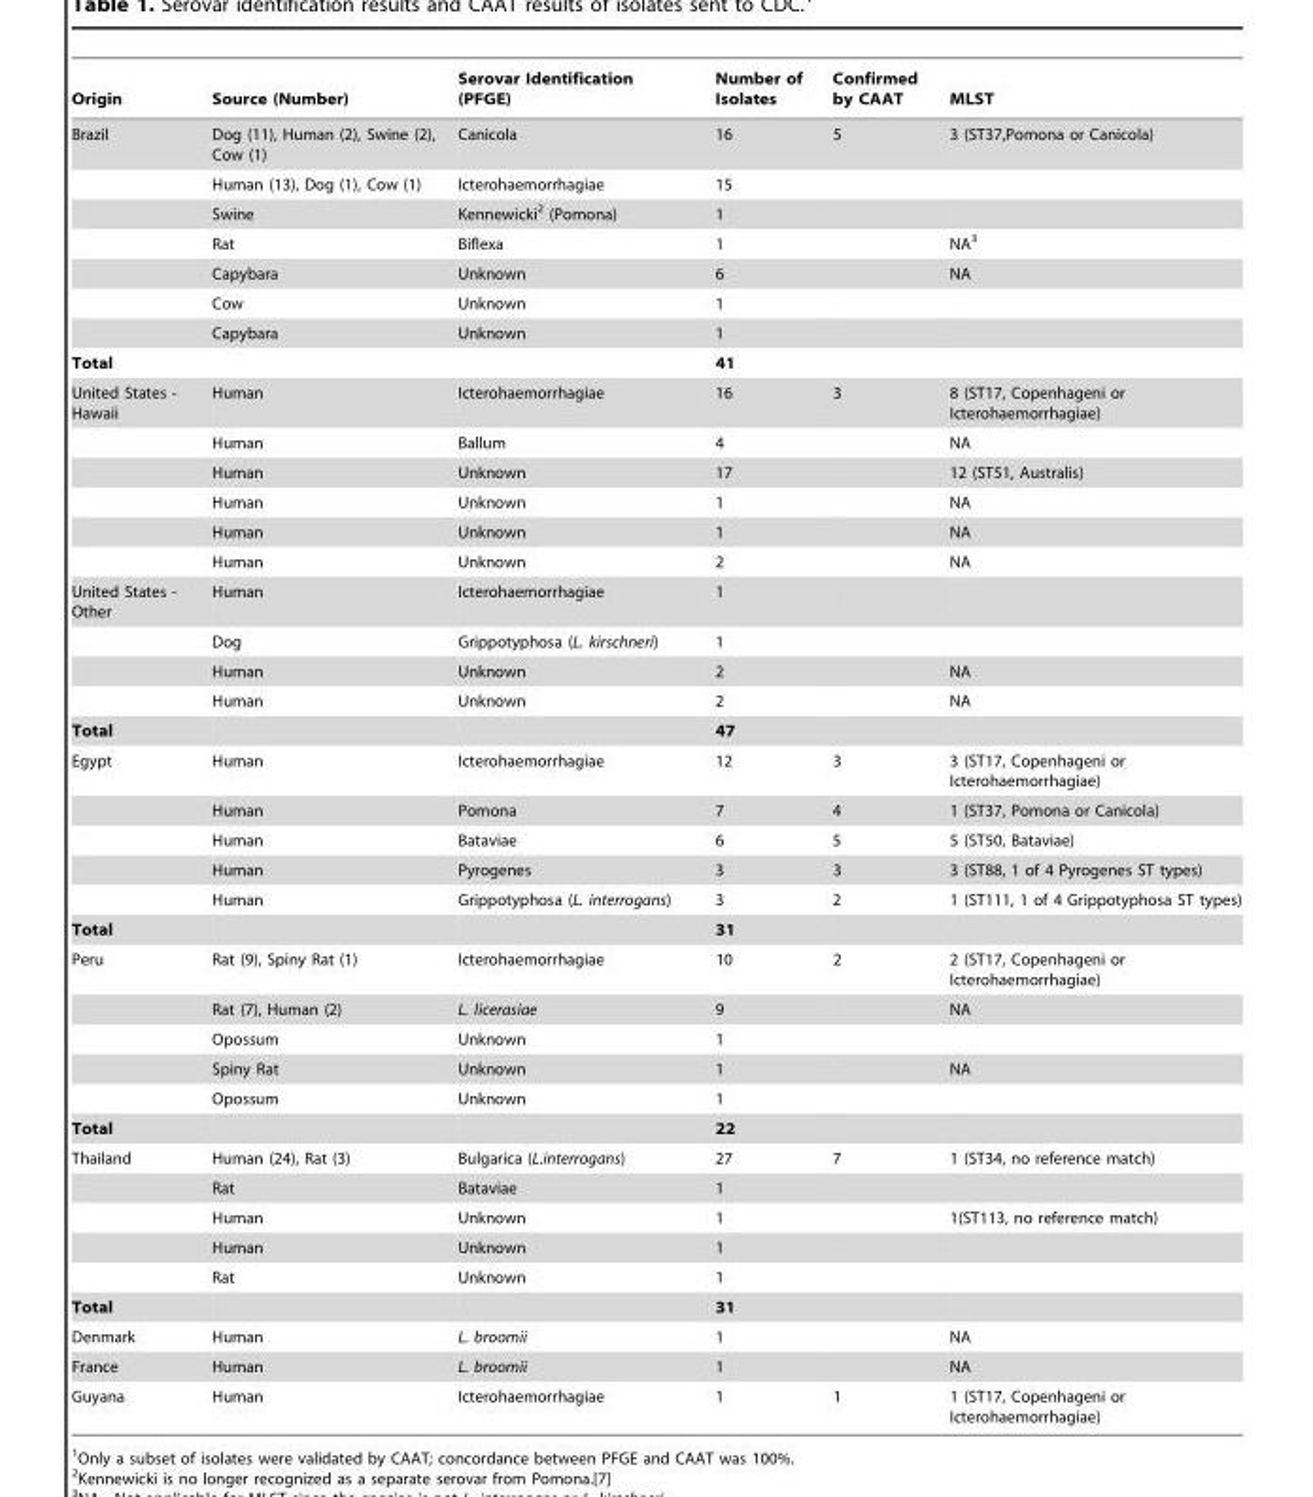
<table><thead><tr><td>Origin</td><td>Source (Number)</td><td>Serovar Identification (PFGE)</td><td>Number of Isolates</td><td>Confirmed by CAAT</td><td>MLST</td></tr></thead><tbody><tr><td rowspan="7">Brazil</td><td>Dog (11), Human (2), Swine (2), Cow (1)</td><td>Canicola</td><td>16</td><td>5</td><td>3 (ST37,Pomona or Canicola)</td></tr><tr><td>Human (13), Dog (1), Cow (1)</td><td>Icterohaemorrhagiae</td><td>15</td><td></td><td></td></tr><tr><td>Swine</td><td>Kennewicki<sup>2</sup> (Pomona)</td><td>1</td><td></td><td></td></tr><tr><td>Rat</td><td>Biflexa</td><td>1</td><td></td><td>NA<sup>3</sup></td></tr><tr><td>Capybara</td><td>Unknown</td><td>6</td><td></td><td>NA</td></tr><tr><td>Cow</td><td>Unknown</td><td>1</td><td></td><td></td></tr><tr><td>Capybara</td><td>Unknown</td><td>1</td><td></td><td></td></tr><tr><td>Total</td><td></td><td></td><td>41</td><td></td><td></td></tr><tr><td rowspan="6">United States - Hawaii</td><td>Human</td><td>Icterohaemorrhagiae</td><td>16</td><td>3</td><td>8 (ST17, Copenhageni or Icterohaemorrhagiae)</td></tr><tr><td>Human</td><td>Ballum</td><td>4</td><td></td><td>NA</td></tr><tr><td>Human</td><td>Unknown</td><td>17</td><td></td><td>12 (ST51, Australis)</td></tr><tr><td>Human</td><td>Unknown</td><td>1</td><td></td><td>NA</td></tr><tr><td>Human</td><td>Unknown</td><td>1</td><td></td><td>NA</td></tr><tr><td>Human</td><td>Unknown</td><td>2</td><td></td><td>NA</td></tr><tr><td rowspan="4">United States - Other</td><td>Human</td><td>Icterohaemorrhagiae</td><td>1</td><td></td><td></td></tr><tr><td>Dog</td><td>Grippotyphosa (L. kirschneri)</td><td>1</td><td></td><td></td></tr><tr><td>Human</td><td>Unknown</td><td>2</td><td></td><td>NA</td></tr><tr><td>Human</td><td>Unknown</td><td>2</td><td></td><td>NA</td></tr><tr><td>Total</td><td></td><td></td><td>47</td><td></td><td></td></tr><tr><td rowspan="5">Egypt</td><td>Human</td><td>Icterohaemorrhagiae</td><td>12</td><td>3</td><td>3 (ST17, Copenhageni or Icterohaemorrhagiae)</td></tr><tr><td>Human</td><td>Pomona</td><td>7</td><td>4</td><td>1 (ST37, Pomona or Canicola)</td></tr><tr><td>Human</td><td>Bataviae</td><td>6</td><td>5</td><td>5 (ST50, Bataviae)</td></tr><tr><td>Human</td><td>Pyrogenes</td><td>3</td><td>3</td><td>3 (ST88, 1 of 4 Pyrogenes ST types)</td></tr><tr><td>Human</td><td>Grippotyphosa (L. interrogans)</td><td>3</td><td>2</td><td>1 (ST111, 1 of 4 Grippotyphosa ST types)</td></tr><tr><td>Total</td><td></td><td></td><td>31</td><td></td><td></td></tr><tr><td rowspan="5">Peru</td><td>Rat (9), Spiny Rat (1)</td><td>Icterohaemorrhagiae</td><td>10</td><td>2</td><td>2 (ST17, Copenhageni or Icterohaemorrhagiae)</td></tr><tr><td>Rat (7), Human (2)</td><td>L. licerasiae</td><td>9</td><td></td><td>NA</td></tr><tr><td>Opossum</td><td>Unknown</td><td>1</td><td></td><td></td></tr><tr><td>Spiny Rat</td><td>Unknown</td><td>1</td><td></td><td>NA</td></tr><tr><td>Opossum</td><td>Unknown</td><td>1</td><td></td><td></td></tr><tr><td>Total</td><td></td><td></td><td>22</td><td></td><td></td></tr><tr><td rowspan="5">Thailand</td><td>Human (24), Rat (3)</td><td>Bulgarica (L.interrogans)</td><td>27</td><td>7</td><td>1 (ST34, no reference match)</td></tr><tr><td>Rat</td><td>Bataviae</td><td>1</td><td></td><td></td></tr><tr><td>Human</td><td>Unknown</td><td>1</td><td></td><td>1(ST113, no reference match)</td></tr><tr><td>Human</td><td>Unknown</td><td>1</td><td></td><td></td></tr><tr><td>Rat</td><td>Unknown</td><td>1</td><td></td><td></td></tr><tr><td>Total</td><td></td><td></td><td>31</td><td></td><td></td></tr><tr><td>Denmark</td><td>Human</td><td>L. broomii</td><td>1</td><td></td><td>NA</td></tr><tr><td>France</td><td>Human</td><td>L. broomii</td><td>1</td><td></td><td>NA</td></tr><tr><td>Guyana</td><td>Human</td><td>Icterohaemorrhagiae</td><td>1</td><td>1</td><td>1 (ST17, Copenhageni or Icterohaemorrhagiae)</td></tr></tbody></table>